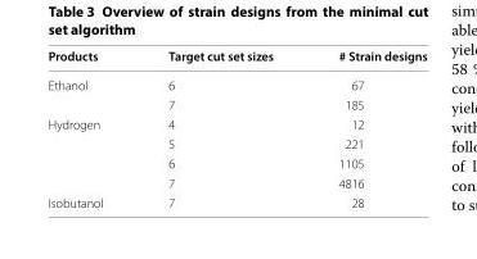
<table><thead><tr><td>Products</td><td>Target cut set sizes</td><td># Strain designs</td></tr></thead><tbody><tr><td rowspan="2">Ethanol</td><td>6</td><td>67</td></tr><tr><td>7</td><td>185</td></tr><tr><td rowspan="4">Hydrogen</td><td>4</td><td>12</td></tr><tr><td>5</td><td>221</td></tr><tr><td>6</td><td>1105</td></tr><tr><td>7</td><td>4816</td></tr><tr><td>Isobutanol</td><td>7</td><td>28</td></tr></tbody></table>